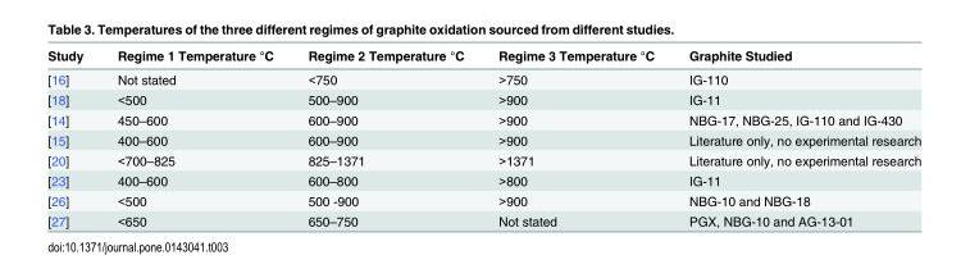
<table><thead><tr><td>Study</td><td>Regime 1 Temperature °C</td><td>Regime 2 Temperature °C</td><td>Regime 3 Temperature °C</td><td>Graphite Studied</td></tr></thead><tbody><tr><td>[16]</td><td>Not stated</td><td>&lt;750</td><td>&gt;750</td><td>IG-110</td></tr><tr><td>[18]</td><td>&lt;500</td><td>500–900</td><td>&gt;900</td><td>IG-11</td></tr><tr><td>[14]</td><td>450–600</td><td>600–900</td><td>&gt;900</td><td>NBG-17, NBG-25, IG-110 and IG-430</td></tr><tr><td>[15]</td><td>400–600</td><td>600–900</td><td>&gt;900</td><td>Literature only, no experimental research</td></tr><tr><td>[20]</td><td>&lt;700–825</td><td>825–1371</td><td>&gt;1371</td><td>Literature only, no experimental research</td></tr><tr><td>[23]</td><td>400–600</td><td>600–800</td><td>&gt;800</td><td>IG-11</td></tr><tr><td>[26]</td><td>&lt;500</td><td>500 -900</td><td>&gt;900</td><td>NBG-10 and NBG-18</td></tr><tr><td>[27]</td><td>&lt;650</td><td>650–750</td><td>Not stated</td><td>PGX, NBG-10 and AG-13-01</td></tr></tbody></table>